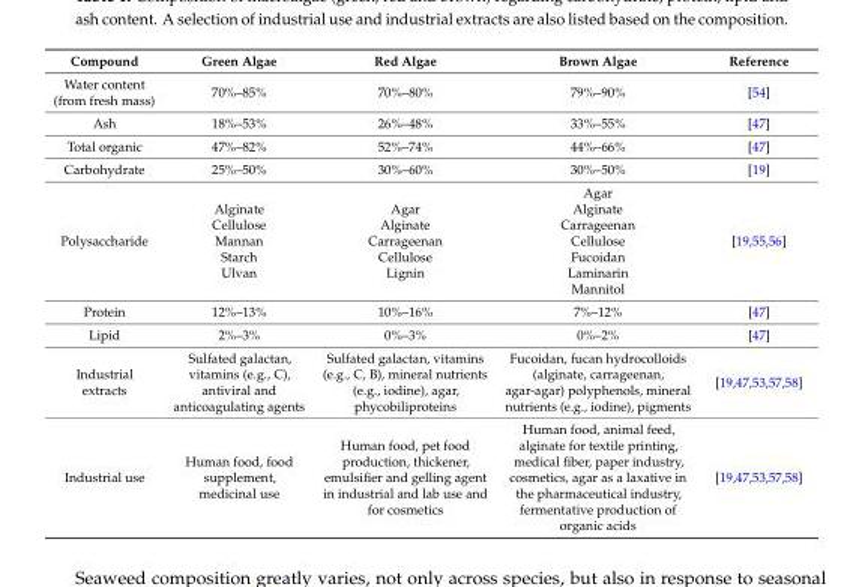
<table><thead><tr><td>Compound</td><td>Green Algae</td><td>Red Algae</td><td>Brown Algae</td><td>Reference</td></tr></thead><tbody><tr><td>Water content (from fresh mass)</td><td>70%–85%</td><td>70%–80%</td><td>79%–90%</td><td>[54]</td></tr><tr><td>Ash</td><td>18%–53%</td><td>26%–48%</td><td>33%–55%</td><td>[47]</td></tr><tr><td>Total organic</td><td>47%–82%</td><td>52%–74%</td><td>44%–66%</td><td>[47]</td></tr><tr><td>Carbohydrate</td><td>25%–50%</td><td>30%–60%</td><td>30%–50%</td><td>[19]</td></tr><tr><td>Polysaccharide</td><td>Alginate Cellulose Mannan Starch Ulvan</td><td>Agar Alginate Carrageenan Cellulose Lignin</td><td>Agar Alginate Carrageenan Cellulose Fucoidan Laminarin Mannitol</td><td>[19,55,56]</td></tr><tr><td>Protein</td><td>12%–13%</td><td>10%–16%</td><td>7%–12%</td><td>[47]</td></tr><tr><td>Lipid</td><td>2%–3%</td><td>0%–3%</td><td>0%–2%</td><td>[47]</td></tr><tr><td>Industrial extracts</td><td>Sulfated galactan, vitamins (e.g., C), antiviral and anticoagulating agents</td><td>Sulfated galactan, vitamins (e.g., C, B), mineral nutrients (e.g., iodine), agar, phycobiliproteins</td><td>Fucoidan, fucan hydrocolloids (alginate, carrageenan, agar-agar) polyphenols, mineral nutrients (e.g., iodine), pigments</td><td>[19,47,53,57,58]</td></tr><tr><td>Industrial use</td><td>Human food, food supplement, medicinal use</td><td>Human food, pet food production, thickener, emulsifier and gelling agent in industrial and lab use and for cosmetics</td><td>Human food, animal feed, alginate for textile printing, medical fiber, paper industry, cosmetics, agar as a laxative in the pharmaceutical industry, fermentative production of organic acids</td><td>[19,47,53,57,58]</td></tr></tbody></table>